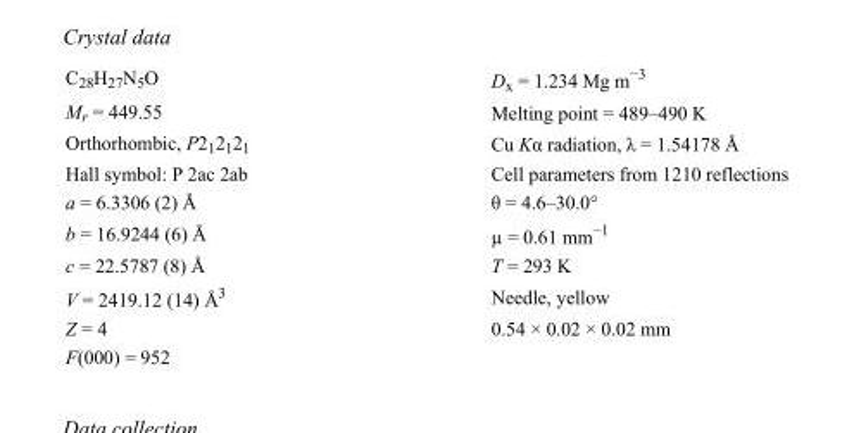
<table><tbody><tr><td>C<sub>28</sub>H<sub>27</sub>N<sub>5</sub>O</td><td>D<sub>x</sub> = 1.234 Mg m<sup>−3</sup></td></tr><tr><td>M<sub>r</sub> = 449.55</td><td>Melting point = 489–490 K</td></tr><tr><td>Orthorhombic, P2<sub>1</sub>2<sub>1</sub>2<sub>1</sub></td><td>Cu Kα radiation, λ = 1.54178 Å</td></tr><tr><td>Hall symbol: P 2ac 2ab</td><td>Cell parameters from 1210 reflections</td></tr><tr><td>a = 6.3306 (2) Å</td><td>θ = 4.6–30.0°</td></tr><tr><td>b = 16.9244 (6) Å</td><td>µ = 0.61 mm<sup>−1</sup></td></tr><tr><td>c = 22.5787 (8) Å</td><td>T = 293 K</td></tr><tr><td>V = 2419.12 (14) Å<sup>3</sup></td><td>Needle, yellow</td></tr><tr><td>Z = 4</td><td>0.54 × 0.02 × 0.02 mm</td></tr><tr><td>F(000) = 952</td><td></td></tr></tbody></table>